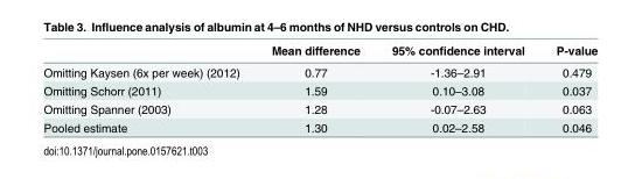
<table><thead><tr><td></td><td>Mean difference</td><td>95% confidence interval</td><td>P-value</td></tr></thead><tbody><tr><td>Omitting Kaysen (6x per week) (2012)</td><td>0.77</td><td>-1.36–2.91</td><td>0.479</td></tr><tr><td>Omitting Schorr (2011)</td><td>1.59</td><td>0.10–3.08</td><td>0.037</td></tr><tr><td>Omitting Spanner (2003)</td><td>1.28</td><td>-0.07–2.63</td><td>0.063</td></tr><tr><td>Pooled estimate</td><td>1.30</td><td>0.02–2.58</td><td>0.046</td></tr></tbody></table>